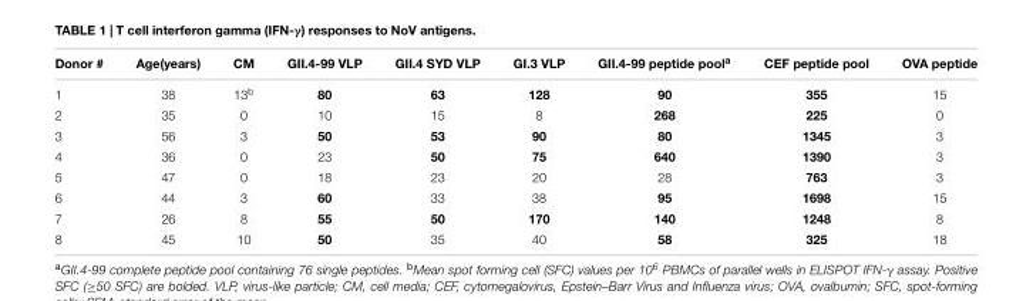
<table><thead><tr><td>Donor #</td><td>Age(years)</td><td>CM</td><td>GII.4-99 VLP</td><td>GII.4 SYD VLP</td><td>GI.3 VLP</td><td>GII.4-99 peptide pool<sup>a</sup></td><td>CEF peptide pool</td><td>OVA peptide</td></tr></thead><tbody><tr><td>1</td><td>38</td><td>13<sup>b</sup></td><td>80</td><td>63</td><td>128</td><td>90</td><td>355</td><td>15</td></tr><tr><td>2</td><td>35</td><td>0</td><td>10</td><td>15</td><td>8</td><td>268</td><td>225</td><td>0</td></tr><tr><td>3</td><td>56</td><td>3</td><td>50</td><td>53</td><td>90</td><td>80</td><td>1345</td><td>3</td></tr><tr><td>4</td><td>36</td><td>0</td><td>23</td><td>50</td><td>75</td><td>640</td><td>1390</td><td>3</td></tr><tr><td>5</td><td>47</td><td>0</td><td>18</td><td>23</td><td>20</td><td>28</td><td>763</td><td>3</td></tr><tr><td>6</td><td>44</td><td>3</td><td>60</td><td>33</td><td>38</td><td>95</td><td>1698</td><td>15</td></tr><tr><td>7</td><td>26</td><td>8</td><td>55</td><td>50</td><td>170</td><td>140</td><td>1248</td><td>8</td></tr><tr><td>8</td><td>45</td><td>10</td><td>50</td><td>35</td><td>40</td><td>58</td><td>325</td><td>18</td></tr></tbody></table>